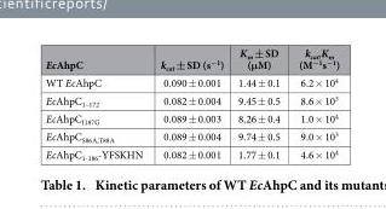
<table><thead><tr><td>EcAhpC</td><td>k<sub>cat</sub> ± SD (s<sup>−1</sup>)</td><td>K<sub>m</sub> ± SD (μM)</td><td>k<sub>cat/</sub>K<sub>m</sub> (M<sup>−1</sup>s<sup>−1</sup>)</td></tr></thead><tbody><tr><td>WT EcAhpC</td><td>0.090 ± 0.001</td><td>1.44 ± 0.1</td><td>6.2 × 10<sup>4</sup></td></tr><tr><td>EcAhpC<sub>1–172</sub></td><td>0.082 ± 0.004</td><td>9.45 ± 0.5</td><td>8.6 × 10<sup>3</sup></td></tr><tr><td>EcAhpC<sub>I187G</sub></td><td>0.089 ± 0.003</td><td>8.26 ± 0.4</td><td>1.0 × 10<sup>4</sup></td></tr><tr><td>EcAhpC<sub>S86A,T88A</sub></td><td>0.089 ± 0.004</td><td>9.74 ± 0.5</td><td>9.0 × 10<sup>3</sup></td></tr><tr><td>EcAhpC<sub>1-186</sub>-YFSKHN</td><td>0.082 ± 0.001</td><td>1.77 ± 0.1</td><td>4.6 × 10<sup>4</sup></td></tr></tbody></table>